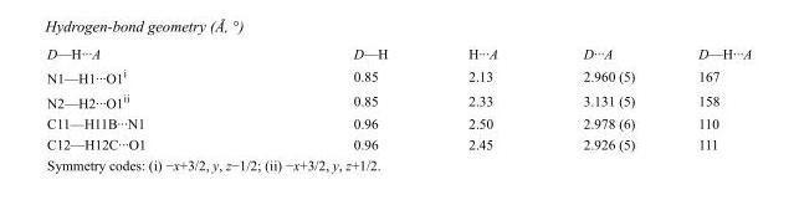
<table><tbody><tr><td>D—H···A</td><td>D—H</td><td>H···A</td><td>D···A</td><td>D—H···A</td></tr><tr><td>N1—H1···O1<sup>i</sup></td><td>0.85</td><td>2.13</td><td>2.960 (5)</td><td>167</td></tr><tr><td>N2—H2···O1<sup>ii</sup></td><td>0.85</td><td>2.33</td><td>3.131 (5)</td><td>158</td></tr><tr><td>C11—H11B···N1</td><td>0.96</td><td>2.50</td><td>2.978 (6)</td><td>110</td></tr><tr><td>C12—H12C···O1</td><td>0.96</td><td>2.45</td><td>2.926 (5)</td><td>111</td></tr></tbody></table>